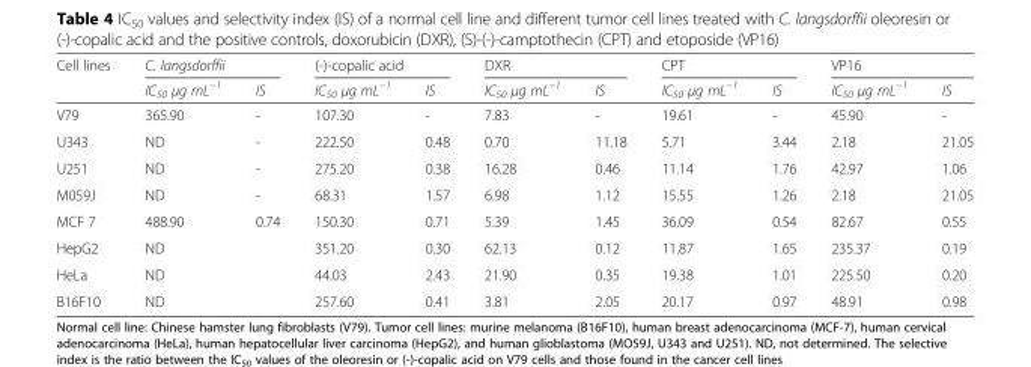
<table><thead><tr><td rowspan="2">Cell lines</td><td colspan="2">C. langsdorffii</td><td colspan="2">(-)-copalic acid</td><td colspan="2">DXR</td><td colspan="2">CPT</td><td colspan="2">VP16</td></tr><tr><td>IC<sub>50</sub> µg mL<sup>−1</sup></td><td>IS</td><td>IC<sub>50</sub> µg mL<sup>−1</sup></td><td>IS</td><td>IC<sub>50</sub> µg mL<sup>−1</sup></td><td>IS</td><td>IC<sub>50</sub> µg mL<sup>−1</sup></td><td>IS</td><td>IC<sub>50</sub> µg mL<sup>−1</sup></td><td>IS</td></tr></thead><tbody><tr><td>V79</td><td>365.90</td><td>-</td><td>107.30</td><td>-</td><td>7.83</td><td>-</td><td>19.61</td><td>-</td><td>45.90</td><td>-</td></tr><tr><td>U343</td><td>ND</td><td>-</td><td>222.50</td><td>0.48</td><td>0.70</td><td>11.18</td><td>5.71</td><td>3.44</td><td>2.18</td><td>21.05</td></tr><tr><td>U251</td><td>ND</td><td>-</td><td>275.20</td><td>0.38</td><td>16.28</td><td>0.46</td><td>11.14</td><td>1.76</td><td>42.97</td><td>1.06</td></tr><tr><td>M059J</td><td>ND</td><td>-</td><td>68.31</td><td>1.57</td><td>6.98</td><td>1.12</td><td>15.55</td><td>1.26</td><td>2.18</td><td>21.05</td></tr><tr><td>MCF 7</td><td>488.90</td><td>0.74</td><td>150.30</td><td>0.71</td><td>5.39</td><td>1.45</td><td>36.09</td><td>0.54</td><td>82.67</td><td>0.55</td></tr><tr><td>HepG2</td><td>ND</td><td></td><td>351.20</td><td>0.30</td><td>62.13</td><td>0.12</td><td>11.87</td><td>1.65</td><td>235.37</td><td>0.19</td></tr><tr><td>HeLa</td><td>ND</td><td></td><td>44.03</td><td>2.43</td><td>21.90</td><td>0.35</td><td>19.38</td><td>1.01</td><td>225.50</td><td>0.20</td></tr><tr><td>B16F10</td><td>ND</td><td></td><td>257.60</td><td>0.41</td><td>3.81</td><td>2.05</td><td>20.17</td><td>0.97</td><td>48.91</td><td>0.98</td></tr></tbody></table>